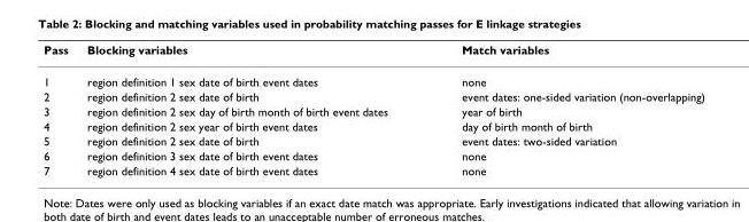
<table><thead><tr><td>Pass</td><td>Blocking variables</td><td>Match variables</td></tr></thead><tbody><tr><td>1</td><td>region definition 1 sex date of birth event dates</td><td>none</td></tr><tr><td>2</td><td>region definition 2 sex date of birth</td><td>event dates: one-sided variation (non-overlapping)</td></tr><tr><td>3</td><td>region definition 2 sex day of birth month of birth event dates</td><td>year of birth</td></tr><tr><td>4</td><td>region definition 2 sex year of birth event dates</td><td>day of birth month of birth</td></tr><tr><td>5</td><td>region definition 2 sex date of birth</td><td>event dates: two-sided variation</td></tr><tr><td>6</td><td>region definition 3 sex date of birth event dates</td><td>none</td></tr><tr><td>7</td><td>region definition 4 sex date of birth event dates</td><td>none</td></tr></tbody></table>